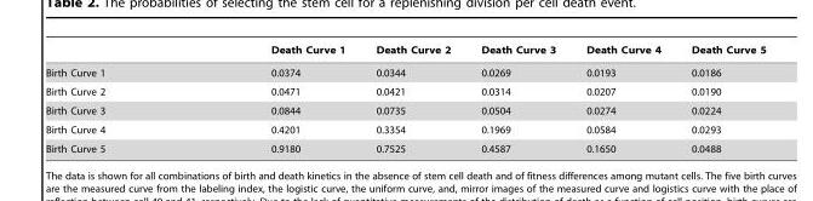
<table><thead><tr><td></td><td>Death Curve 1</td><td>Death Curve 2</td><td>Death Curve 3</td><td>Death Curve 4</td><td>Death Curve 5</td></tr></thead><tbody><tr><td>Birth Curve 1</td><td>0.0374</td><td>0.0344</td><td>0.0269</td><td>0.0193</td><td>0.0186</td></tr><tr><td>Birth Curve 2</td><td>0.0471</td><td>0.0421</td><td>0.0314</td><td>0.0207</td><td>0.0190</td></tr><tr><td>Birth Curve 3</td><td>0.0844</td><td>0.0735</td><td>0.0504</td><td>0.0274</td><td>0.0224</td></tr><tr><td>Birth Curve 4</td><td>0.4201</td><td>0.3354</td><td>0.1969</td><td>0.0584</td><td>0.0293</td></tr><tr><td>Birth Curve 5</td><td>0.9180</td><td>0.7525</td><td>0.4587</td><td>0.1650</td><td>0.0488</td></tr></tbody></table>